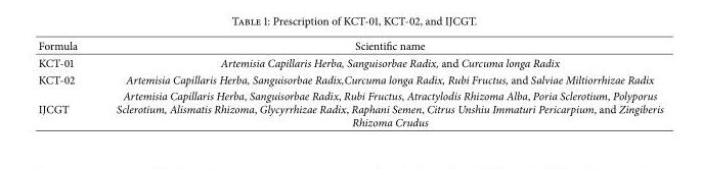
<table><thead><tr><td>Formula</td><td>Scientific name</td></tr></thead><tbody><tr><td>KCT-01</td><td>Artemisia Capillaris Herba, Sanguisorbae Radix, and Curcuma longa Radix</td></tr><tr><td>KCT-02</td><td>Artemisia Capillaris Herba, Sanguisorbae Radix,Curcuma longa Radix, Rubi Fructus, and Salviae Miltiorrhizae Radix</td></tr><tr><td>IJCGT</td><td>Artemisia Capillaris Herba, Sanguisorbae Radix, Rubi Fructus, Atractylodis Rhizoma Alba, Poria Sclerotium, Polyporus Sclerotium, Alismatis Rhizoma, Glycyrrhizae Radix, Raphani Semen, Citrus Unshiu Immaturi Pericarpium, and Zingiberis Rhizoma Crudus</td></tr></tbody></table>